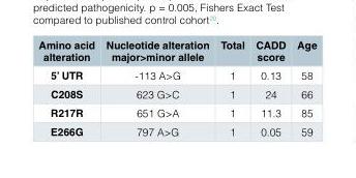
<table><thead><tr><td>Amino acid alteration</td><td>Nucleotide alteration major&gt;minor allele</td><td>Total</td><td>CADD score</td><td>Age</td></tr></thead><tbody><tr><td>5’ UTR</td><td>-113 A&gt;G</td><td>1</td><td>0.13</td><td>58</td></tr><tr><td>C208S</td><td>623 G&gt;C</td><td>1</td><td>24</td><td>66</td></tr><tr><td>R217R</td><td>651 G&gt;A</td><td>1</td><td>11.3</td><td>85</td></tr><tr><td>E266G</td><td>797 A&gt;G</td><td>1</td><td>0.05</td><td>59</td></tr></tbody></table>